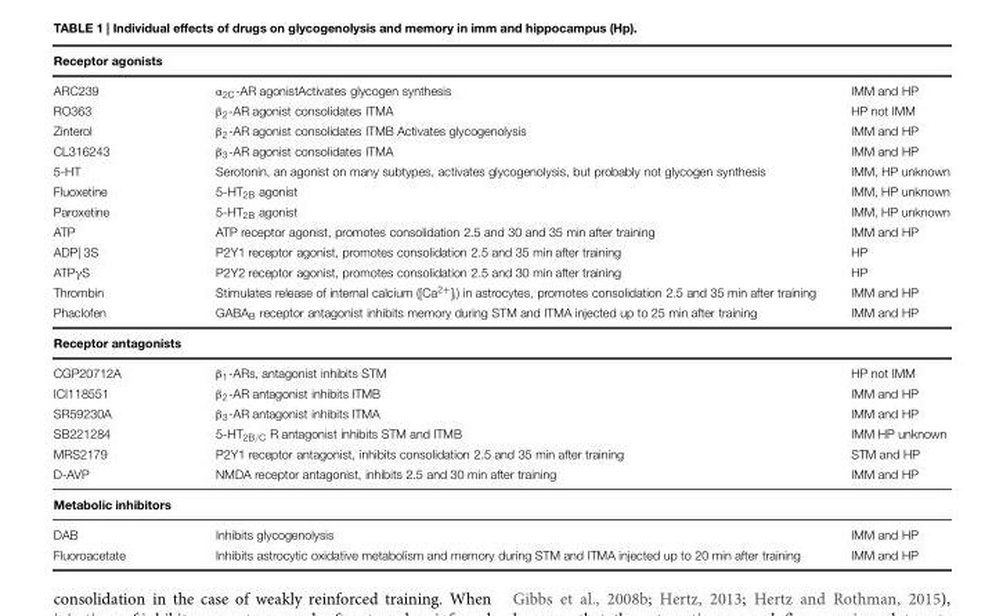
<table><thead><tr><td>Receptor agonists</td><td></td><td></td></tr></thead><tbody><tr><td>ARC239</td><td>α<sub>2C</sub>-AR agonistActivates glycogen synthesis</td><td>IMM and HP</td></tr><tr><td>RO363</td><td>β<sub>2</sub>-AR agonist consolidates ITMA</td><td>HP not IMM</td></tr><tr><td>Zinterol</td><td>β<sub>2</sub>-AR agonist consolidates ITMB Activates glycogenolysis</td><td>IMM and HP</td></tr><tr><td>CL316243</td><td>β<sub>3</sub>-AR agonist consolidates ITMA</td><td>IMM and HP</td></tr><tr><td>5-HT</td><td>Serotonin, an agonist on many subtypes, activates glycogenolysis, but probably not glycogen synthesis</td><td>IMM, HP unknown</td></tr><tr><td>Fluoxetine</td><td>5-HT<sub>2B</sub> agonist</td><td>IMM, HP unknown</td></tr><tr><td>Paroxetine</td><td>5-HT<sub>2B</sub> agonist</td><td>IMM, HP unknown</td></tr><tr><td>ATP</td><td>ATP receptor agonist, promotes consolidation 2.5 and 30 and 35 min after training</td><td>IMM and HP</td></tr><tr><td>ADP| 3S</td><td>P2Y1 receptor agonist, promotes consolidation 2.5 and 35 min after training</td><td>HP</td></tr><tr><td>ATPγS</td><td>P2Y2 receptor agonist, promotes consolidation 2.5 and 30 min after training</td><td>HP</td></tr><tr><td>Thrombin</td><td>Stimulates release of internal calcium ([Ca<sup>2+</sup>]<sub>i</sub>) in astrocytes, promotes consolidation 2.5 and 35 min after training</td><td>IMM and HP</td></tr><tr><td>Phaclofen</td><td>GABA<sub>B</sub> receptor antagonist inhibits memory during STM and ITMA injected up to 25 min after training</td><td>IMM and HP</td></tr><tr><td colspan="3">Receptor antagonists</td></tr><tr><td>CGP20712A</td><td>β<sub>1</sub>-ARs, antagonist inhibits STM</td><td>HP not IMM</td></tr><tr><td>ICI118551</td><td>β<sub>2</sub>-AR antagonist inhibits ITMB</td><td>IMM and HP</td></tr><tr><td>SR59230A</td><td>β<sub>3</sub>-AR antagonist inhibits ITMA</td><td>IMM and HP</td></tr><tr><td>SB221284</td><td>5-HT<sub>2B/C</sub> R antagonist inhibits STM and ITMB</td><td>IMM HP unknown</td></tr><tr><td>MRS2179</td><td>P2Y1 receptor antagonist, inhibits consolidation 2.5 and 35 min after training</td><td>STM and HP</td></tr><tr><td>D-AVP</td><td>NMDA receptor antagonist, inhibits 2.5 and 30 min after training</td><td>IMM and HP</td></tr><tr><td colspan="3">Metabolic inhibitors</td></tr><tr><td>DAB</td><td>Inhibits glycogenolysis</td><td>IMM and HP</td></tr><tr><td>Fluoroacetate</td><td>Inhibits astrocytic oxidative metabolism and memory during STM and ITMA injected up to 20 min after training</td><td>IMM and HP</td></tr></tbody></table>